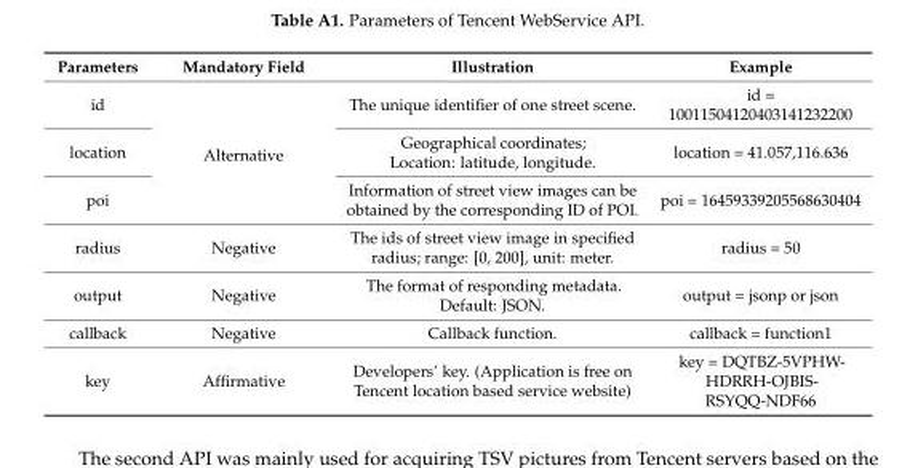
<table><thead><tr><td>Parameters</td><td>Mandatory Field</td><td>Illustration</td><td>Example</td></tr></thead><tbody><tr><td>id</td><td rowspan="3">Alternative</td><td>The unique identifier of one street scene.</td><td>id = 10011504120403141232200</td></tr><tr><td>location</td><td>Geographical coordinates; Location: latitude, longitude.</td><td>location = 41.057,116.636</td></tr><tr><td>poi</td><td>Information of street view images can be obtained by the corresponding ID of POI.</td><td>poi = 16459339205568630404</td></tr><tr><td>radius</td><td>Negative</td><td>The ids of street view image in specified radius; range: [0, 200], unit: meter.</td><td>radius = 50</td></tr><tr><td>output</td><td>Negative</td><td>The format of responding metadata. Default: JSON.</td><td>output = jsonp or json</td></tr><tr><td>callback</td><td>Negative</td><td>Callback function.</td><td>callback = function1</td></tr><tr><td>key</td><td>Affirmative</td><td>Developers’ key. (Application is free on Tencent location based service website)</td><td>key = DQTBZ-5VPHW- HDRRH-OJBIS- RSYQQ-NDF66</td></tr></tbody></table>